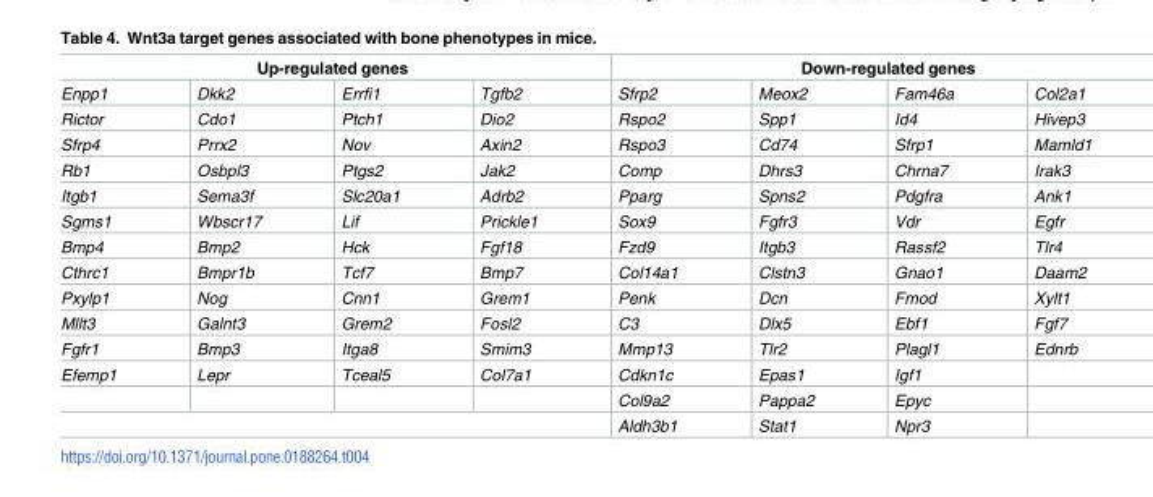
<table><thead><tr><td colspan="4">Up-regulated genes</td><td colspan="4">Down-regulated genes</td></tr><tr><td>Enpp1</td><td>Dkk2</td><td>Errfi1</td><td>Tgfb2</td><td>Sfrp2</td><td>Meox2</td><td>Fam46a</td><td>Col2a1</td></tr></thead><tbody><tr><td>Rictor</td><td>Cdo1</td><td>Ptch1</td><td>Dio2</td><td>Rspo2</td><td>Spp1</td><td>Id4</td><td>Hivep3</td></tr><tr><td>Sfrp4</td><td>Prrx2</td><td>Nov</td><td>Axin2</td><td>Rspo3</td><td>Cd74</td><td>Sfrp1</td><td>Mamld1</td></tr><tr><td>Rb1</td><td>Osbpl3</td><td>Ptgs2</td><td>Jak2</td><td>Comp</td><td>Dhrs3</td><td>Chrna7</td><td>Irak3</td></tr><tr><td>Itgb1</td><td>Sema3f</td><td>Slc20a1</td><td>Adrb2</td><td>Pparg</td><td>Spns2</td><td>Pdgfra</td><td>Ank1</td></tr><tr><td>Sgms1</td><td>Wbscr17</td><td>Lif</td><td>Prickle1</td><td>Sox9</td><td>Fgfr3</td><td>Vdr</td><td>Egfr</td></tr><tr><td>Bmp4</td><td>Bmp2</td><td>Hck</td><td>Fgf18</td><td>Fzd9</td><td>Itgb3</td><td>Rassf2</td><td>Tlr4</td></tr><tr><td>Cthrc1</td><td>Bmpr1b</td><td>Tcf7</td><td>Bmp7</td><td>Col14a1</td><td>Clstn3</td><td>Gnao1</td><td>Daam2</td></tr><tr><td>Pxylp1</td><td>Nog</td><td>Cnn1</td><td>Grem1</td><td>Penk</td><td>Dcn</td><td>Fmod</td><td>Xylt1</td></tr><tr><td>Mllt3</td><td>Galnt3</td><td>Grem2</td><td>Fosl2</td><td>C3</td><td>Dlx5</td><td>Ebf1</td><td>Fgf7</td></tr><tr><td>Fgfr1</td><td>Bmp3</td><td>Itga8</td><td>Smim3</td><td>Mmp13</td><td>Tlr2</td><td>Plagl1</td><td>Ednrb</td></tr><tr><td rowspan="2">Efemp1</td><td>Lepr</td><td>Tceal5</td><td>Col7a1</td><td>Cdkn1c</td><td>Epas1</td><td>Igf1</td><td></td></tr><tr><td></td><td></td><td></td><td>Col9a2</td><td>Pappa2</td><td>Epyc</td><td></td></tr><tr><td colspan="4"></td><td>Aldh3b1</td><td>Stat1</td><td>Npr3</td><td></td></tr></tbody></table>